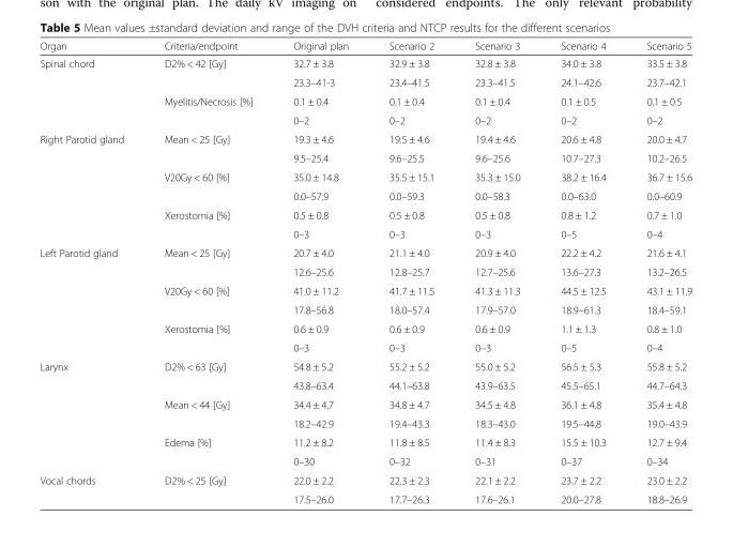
<table><thead><tr><td>Organ</td><td>Criteria/endpoint</td><td>Original plan</td><td>Scenario 2</td><td>Scenario 3</td><td>Scenario 4</td><td>Scenario 5</td></tr></thead><tbody><tr><td rowspan="4">Spinal chord</td><td rowspan="2">D2% &lt; 42 [Gy]</td><td>32.7 ± 3.8</td><td>32.9 ± 3.8</td><td>32.8 ± 3.8</td><td>34.0 ± 3.8</td><td>33.5 ± 3.8</td></tr><tr><td>23.3–41-3</td><td>23.4–41.5</td><td>23.3–41.5</td><td>24.1–42.6</td><td>23.7–42.1</td></tr><tr><td rowspan="2">Myelitis/Necrosis [%]</td><td>0.1 ± 0.4</td><td>0.1 ± 0.4</td><td>0.1 ± 0.4</td><td>0.1 ± 0.5</td><td>0.1 ± 0.5</td></tr><tr><td>0–2</td><td>0–2</td><td>0–2</td><td>0–2</td><td>0–2</td></tr><tr><td rowspan="6">Right Parotid gland</td><td rowspan="2">Mean &lt; 25 [Gy]</td><td>19.3 ± 4.6</td><td>19.5 ± 4.6</td><td>19.4 ± 4.6</td><td>20.6 ± 4.8</td><td>20.0 ± 4.7</td></tr><tr><td>9.5–25.4</td><td>9.6–25.5</td><td>9.6–25.6</td><td>10.7–27.3</td><td>10.2–26.5</td></tr><tr><td rowspan="2">V20Gy &lt; 60 [%]</td><td>35.0 ± 14.8</td><td>35.5 ± 15.1</td><td>35.3 ± 15.0</td><td>38.2 ± 16.4</td><td>36.7 ± 15.6</td></tr><tr><td>0.0–57.9</td><td>0.0–59.3</td><td>0.0–58.3</td><td>0.0–63.0</td><td>0.0–60.9</td></tr><tr><td rowspan="2">Xerostomia [%]</td><td>0.5 ± 0.8</td><td>0.5 ± 0.8</td><td>0.5 ± 0.8</td><td>0.8 ± 1.2</td><td>0.7 ± 1.0</td></tr><tr><td>0–3</td><td>0–3</td><td>0–3</td><td>0–5</td><td>0–4</td></tr><tr><td rowspan="6">Left Parotid gland</td><td rowspan="2">Mean &lt; 25 [Gy]</td><td>20.7 ± 4.0</td><td>21.1 ± 4.0</td><td>20.9 ± 4.0</td><td>22.2 ± 4.2</td><td>21.6 ± 4.1</td></tr><tr><td>12.6–25.6</td><td>12.8–25.7</td><td>12.7–25.6</td><td>13.6–27.3</td><td>13.2–26.5</td></tr><tr><td rowspan="2">V20Gy &lt; 60 [%]</td><td>41.0 ± 11.2</td><td>41.7 ± 11.5</td><td>41.3 ± 11.3</td><td>44.5 ± 12.5</td><td>43.1 ± 11.9</td></tr><tr><td>17.8–56.8</td><td>18.0–57.4</td><td>17.9–57.0</td><td>18.9–61.3</td><td>18.4–59.1</td></tr><tr><td rowspan="2">Xerostomia [%]</td><td>0.6 ± 0.9</td><td>0.6 ± 0.9</td><td>0.6 ± 0.9</td><td>1.1 ± 1.3</td><td>0.8 ± 1.0</td></tr><tr><td>0–3</td><td>0–3</td><td>0–3</td><td>0–5</td><td>0–4</td></tr><tr><td rowspan="6">Larynx</td><td rowspan="2">D2% &lt; 63 [Gy]</td><td>54.8 ± 5.2</td><td>55.2 ± 5.2</td><td>55.0 ± 5.2</td><td>56.5 ± 5.3</td><td>55.8 ± 5.2</td></tr><tr><td>43.8–63.4</td><td>44.1–63.8</td><td>43.9–63.5</td><td>45.5–65.1</td><td>44.7–64.3</td></tr><tr><td rowspan="2">Mean &lt; 44 [Gy]</td><td>34.4 ± 4.7</td><td>34.8 ± 4.7</td><td>34.5 ± 4.8</td><td>36.1 ± 4.8</td><td>35.4 ± 4.8</td></tr><tr><td>18.2–42.9</td><td>19.4–43.3</td><td>18.3–43.0</td><td>19.5–44.8</td><td>19.0–43.9</td></tr><tr><td rowspan="2">Edema [%]</td><td>11.2 ± 8.2</td><td>11.8 ± 8.5</td><td>11.4 ± 8.3</td><td>15.5 ± 10.3</td><td>12.7 ± 9.4</td></tr><tr><td>0–30</td><td>0–32</td><td>0–31</td><td>0–37</td><td>0–34</td></tr><tr><td rowspan="2">Vocal chords</td><td rowspan="2">D2% &lt; 25 [Gy]</td><td>22.0 ± 2.2</td><td>22.3 ± 2.3</td><td>22.1 ± 2.2</td><td>23.7 ± 2.2</td><td>23.0 ± 2.2</td></tr><tr><td>17.5–26.0</td><td>17.7–26.3</td><td>17.6–26.1</td><td>20.0–27.8</td><td>18.8–26.9</td></tr></tbody></table>